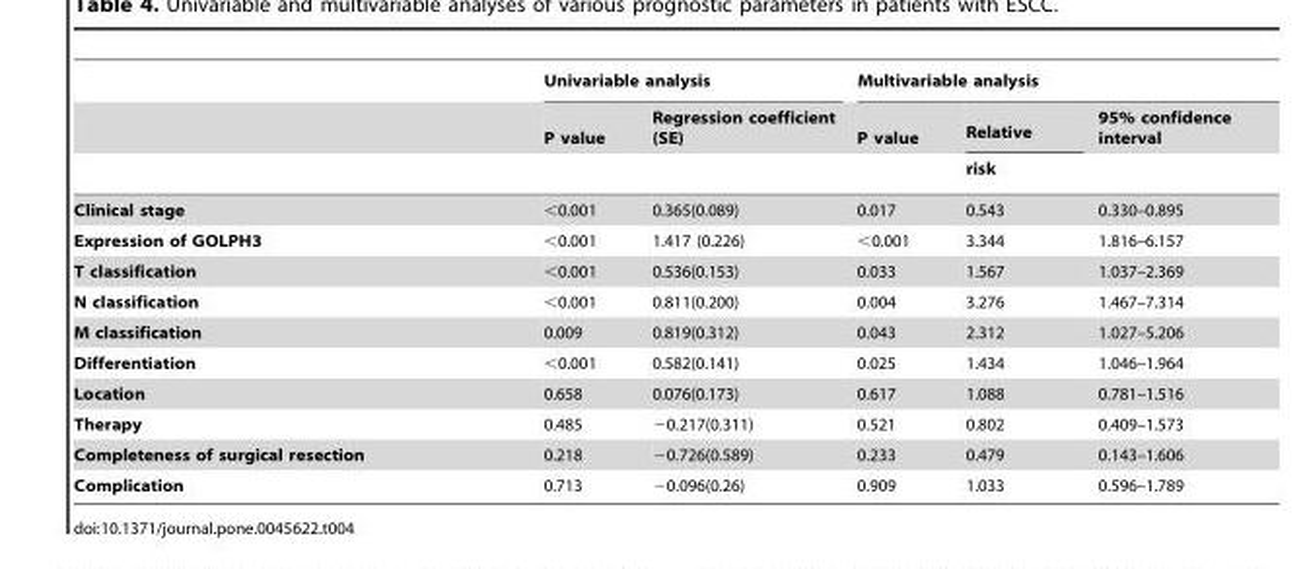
<table><thead><tr><td rowspan="3"></td><td colspan="2">Univariable analysis</td><td colspan="3">Multivariable analysis</td></tr><tr><td rowspan="2">P value</td><td rowspan="2">Regression coefficient (SE)</td><td rowspan="2">P value</td><td rowspan="2">Relative risk</td><td rowspan="2">95% confidence interval</td></tr><tr></tr></thead><tbody><tr><td>Clinical stage</td><td>&lt;0.001</td><td>0.365(0.089)</td><td>0.017</td><td>0.543</td><td>0.330–0.895</td></tr><tr><td>Expression of GOLPH3</td><td>&lt;0.001</td><td>1.417 (0.226)</td><td>&lt;0.001</td><td>3.344</td><td>1.816–6.157</td></tr><tr><td>T classification</td><td>&lt;0.001</td><td>0.536(0.153)</td><td>0.033</td><td>1.567</td><td>1.037–2.369</td></tr><tr><td>N classification</td><td>&lt;0.001</td><td>0.811(0.200)</td><td>0.004</td><td>3.276</td><td>1.467–7.314</td></tr><tr><td>M classification</td><td>0.009</td><td>0.819(0.312)</td><td>0.043</td><td>2.312</td><td>1.027–5.206</td></tr><tr><td>Differentiation</td><td>&lt;0.001</td><td>0.582(0.141)</td><td>0.025</td><td>1.434</td><td>1.046–1.964</td></tr><tr><td>Location</td><td>0.658</td><td>0.076(0.173)</td><td>0.617</td><td>1.088</td><td>0.781–1.516</td></tr><tr><td>Therapy</td><td>0.485</td><td>−0.217(0.311)</td><td>0.521</td><td>0.802</td><td>0.409–1.573</td></tr><tr><td>Completeness of surgical resection</td><td>0.218</td><td>−0.726(0.589)</td><td>0.233</td><td>0.479</td><td>0.143–1.606</td></tr><tr><td>Complication</td><td>0.713</td><td>−0.096(0.26)</td><td>0.909</td><td>1.033</td><td>0.596–1.789</td></tr></tbody></table>